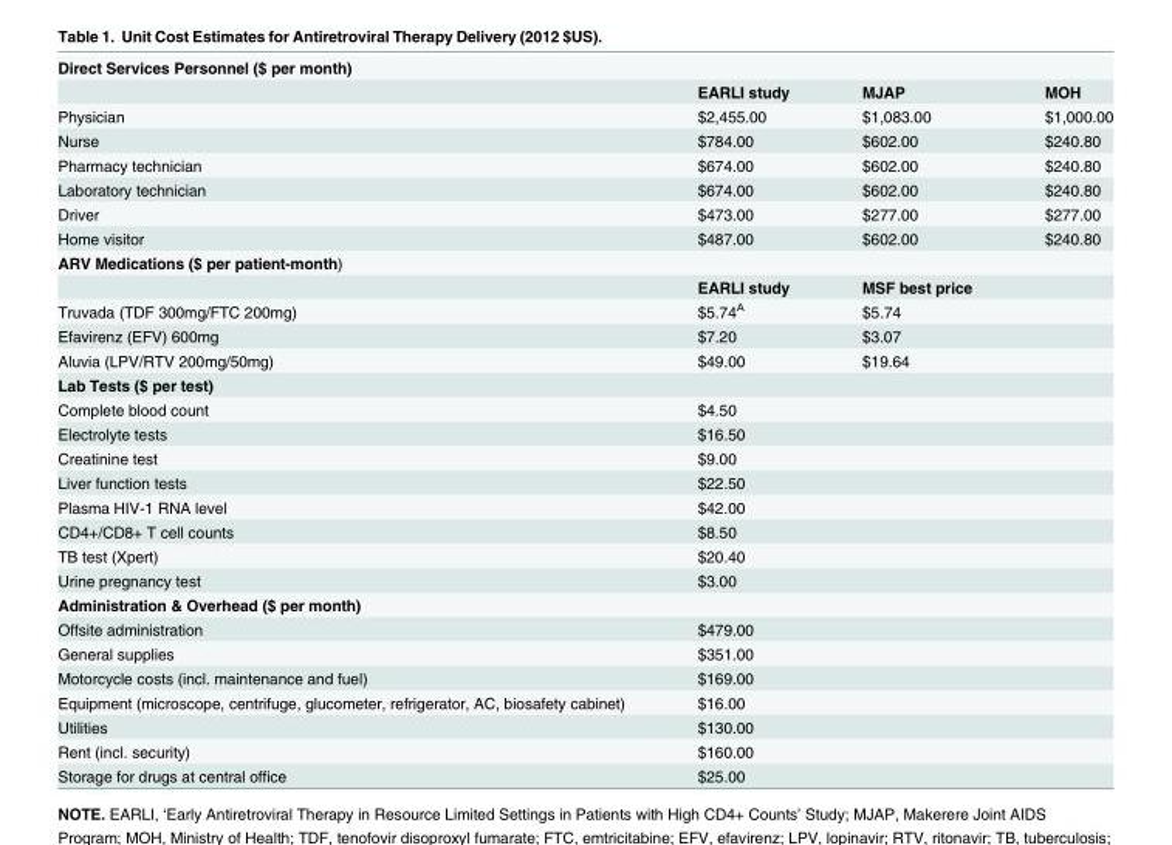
<table><tbody><tr><td colspan="4">Direct Services Personnel ($ per month)</td></tr><tr><td></td><td>EARLI study</td><td>MJAP</td><td>MOH</td></tr><tr><td>Physician</td><td>$2,455.00</td><td>$1,083.00</td><td>$1,000.00</td></tr><tr><td>Nurse</td><td>$784.00</td><td>$602.00</td><td>$240.80</td></tr><tr><td>Pharmacy technician</td><td>$674.00</td><td>$602.00</td><td>$240.80</td></tr><tr><td>Laboratory technician</td><td>$674.00</td><td>$602.00</td><td>$240.80</td></tr><tr><td>Driver</td><td>$473.00</td><td>$277.00</td><td>$277.00</td></tr><tr><td>Home visitor</td><td>$487.00</td><td>$602.00</td><td>$240.80</td></tr><tr><td colspan="4">ARV Medications ($ per patient-month)</td></tr><tr><td></td><td>EARLI study</td><td>MSF best price</td><td></td></tr><tr><td>Truvada (TDF 300mg/FTC 200mg)</td><td>$5.74<sup>A</sup></td><td>$5.74</td><td></td></tr><tr><td>Efavirenz (EFV) 600mg</td><td>$7.20</td><td>$3.07</td><td></td></tr><tr><td>Aluvia (LPV/RTV 200mg/50mg)</td><td>$49.00</td><td>$19.64</td><td></td></tr><tr><td colspan="4">Lab Tests ($ per test)</td></tr><tr><td>Complete blood count</td><td>$4.50</td><td></td><td></td></tr><tr><td>Electrolyte tests</td><td>$16.50</td><td></td><td></td></tr><tr><td>Creatinine test</td><td>$9.00</td><td></td><td></td></tr><tr><td>Liver function tests</td><td>$22.50</td><td></td><td></td></tr><tr><td>Plasma HIV-1 RNA level</td><td>$42.00</td><td></td><td></td></tr><tr><td>CD4+/CD8+ T cell counts</td><td>$8.50</td><td></td><td></td></tr><tr><td>TB test (Xpert)</td><td>$20.40</td><td></td><td></td></tr><tr><td>Urine pregnancy test</td><td>$3.00</td><td></td><td></td></tr><tr><td colspan="4">Administration &amp; Overhead ($ per month)</td></tr><tr><td>Offsite administration</td><td>$479.00</td><td></td><td></td></tr><tr><td>General supplies</td><td>$351.00</td><td></td><td></td></tr><tr><td>Motorcycle costs (incl. maintenance and fuel)</td><td>$169.00</td><td></td><td></td></tr><tr><td>Equipment (microscope, centrifuge, glucometer, refrigerator, AC, biosafety cabinet)</td><td>$16.00</td><td></td><td></td></tr><tr><td>Utilities</td><td>$130.00</td><td></td><td></td></tr><tr><td>Rent (incl. security)</td><td>$160.00</td><td></td><td></td></tr><tr><td>Storage for drugs at central office</td><td>$25.00</td><td></td><td></td></tr></tbody></table>